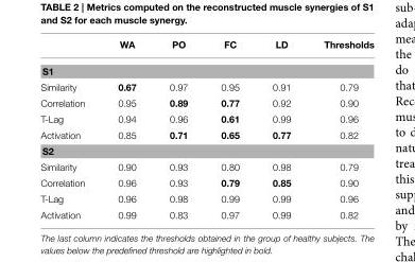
<table><thead><tr><td></td><td>WA</td><td>PO</td><td>FC</td><td>LD</td><td>Thresholds</td></tr></thead><tbody><tr><td colspan="6">S1</td></tr><tr><td>Similarity</td><td>0.67</td><td>0.97</td><td>0.95</td><td>0.91</td><td>0.79</td></tr><tr><td>Correlation</td><td>0.95</td><td>0.89</td><td>0.77</td><td>0.92</td><td>0.90</td></tr><tr><td>T-Lag</td><td>0.94</td><td>0.96</td><td>0.61</td><td>0.99</td><td>0.96</td></tr><tr><td>Activation</td><td>0.85</td><td>0.71</td><td>0.65</td><td>0.77</td><td>0.82</td></tr><tr><td colspan="6">S2</td></tr><tr><td>Similarity</td><td>0.90</td><td>0.93</td><td>0.80</td><td>0.98</td><td>0.79</td></tr><tr><td>Correlation</td><td>0.96</td><td>0.93</td><td>0.79</td><td>0.85</td><td>0.90</td></tr><tr><td>T-Lag</td><td>0.96</td><td>0.98</td><td>0.99</td><td>0.99</td><td>0.96</td></tr><tr><td>Activation</td><td>0.99</td><td>0.83</td><td>0.97</td><td>0.99</td><td>0.82</td></tr></tbody></table>